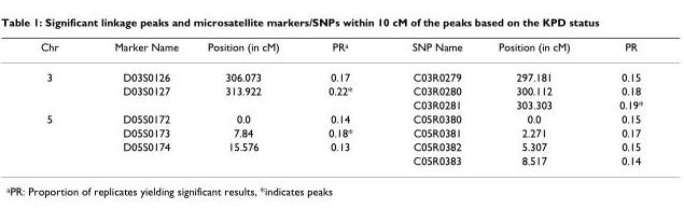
<table><thead><tr><td>Chr</td><td>Marker Name</td><td>Position (in cM)</td><td>PRa</td><td>SNP Name</td><td>Position (in cM)</td><td>PR</td></tr></thead><tbody><tr><td rowspan="3">3</td><td>D03S0126</td><td>306.073</td><td>0.17</td><td>C03R0279</td><td>297.181</td><td>0.15</td></tr><tr><td>D03S0127</td><td>313.922</td><td>0.22*</td><td>C03R0280</td><td>300.112</td><td>0.18</td></tr><tr><td></td><td></td><td></td><td>C03R0281</td><td>303.303</td><td>0.19*</td></tr><tr><td rowspan="4">5</td><td>D05S0172</td><td>0.0</td><td>0.14</td><td>C05R0380</td><td>0.0</td><td>0.15</td></tr><tr><td>D05S0173</td><td>7.84</td><td>0.18*</td><td>C05R0381</td><td>2.271</td><td>0.17</td></tr><tr><td>D05S0174</td><td>15.576</td><td>0.13</td><td>C05R0382</td><td>5.307</td><td>0.15</td></tr><tr><td></td><td></td><td></td><td>C05R0383</td><td>8.517</td><td>0.14</td></tr></tbody></table>